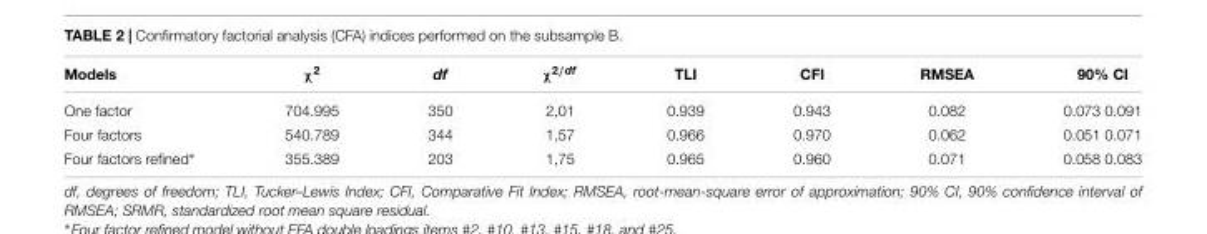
<table><thead><tr><td>Models</td><td>χ<sup>2</sup></td><td>df</td><td>χ<sup>2/df</sup></td><td>TLI</td><td>CFI</td><td>RMSEA</td><td>90% CI</td></tr></thead><tbody><tr><td>One factor</td><td>704.995</td><td>350</td><td>2,01</td><td>0.939</td><td>0.943</td><td>0.082</td><td>0.073 0.091</td></tr><tr><td>Four factors</td><td>540.789</td><td>344</td><td>1,57</td><td>0.966</td><td>0.970</td><td>0.062</td><td>0.051 0.071</td></tr><tr><td>Four factors refined∗</td><td>355.389</td><td>203</td><td>1,75</td><td>0.965</td><td>0.960</td><td>0.071</td><td>0.058 0.083</td></tr></tbody></table>